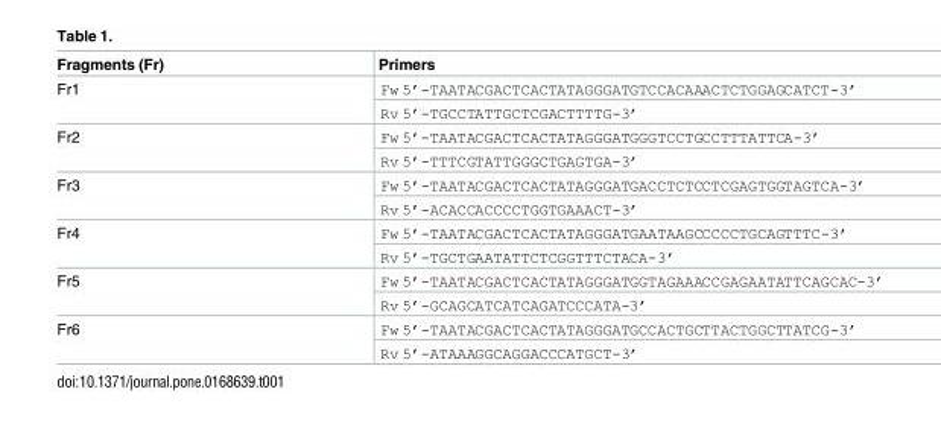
<table><thead><tr><td>Fragments (Fr)</td><td>Primers</td></tr></thead><tbody><tr><td rowspan="2">Fr1</td><td>Fw 5’-TAATACGACTCACTATAGGGATGTCCACAAACTCTGGAGCATCT-3’</td></tr><tr><td>Rv 5’-TGCCTATTGCTCGACTTTTG-3’</td></tr><tr><td rowspan="2">Fr2</td><td>Fw 5’-TAATACGACTCACTATAGGGATGGGTCCTGCCTTTATTCA-3’</td></tr><tr><td>Rv 5’-TTTCGTATTGGGCTGAGTGA-3’</td></tr><tr><td rowspan="2">Fr3</td><td>Fw 5’-TAATACGACTCACTATAGGGATGACCTCTCCTCGAGTGGTAGTCA-3’</td></tr><tr><td>Rv 5’-ACACCACCCCTGGTGAAACT-3’</td></tr><tr><td rowspan="2">Fr4</td><td>Fw 5’-TAATACGACTCACTATAGGGATGAATAAGCCCCCTGCAGTTTC-3’</td></tr><tr><td>Rv 5’-TGCTGAATATTCTCGGTTTCTACA-3’</td></tr><tr><td rowspan="2">Fr5</td><td>Fw 5’-TAATACGACTCACTATAGGGATGGTAGAAACCGAGAATATTCAGCAC-3’</td></tr><tr><td>Rv 5’-GCAGCATCATCAGATCCCATA-3’</td></tr><tr><td rowspan="2">Fr6</td><td>Fw 5’-TAATACGACTCACTATAGGGATGCCACTGCTTACTGGCTTATCG-3’</td></tr><tr><td>Rv 5’-ATAAAGGCAGGACCCATGCT-3’</td></tr></tbody></table>